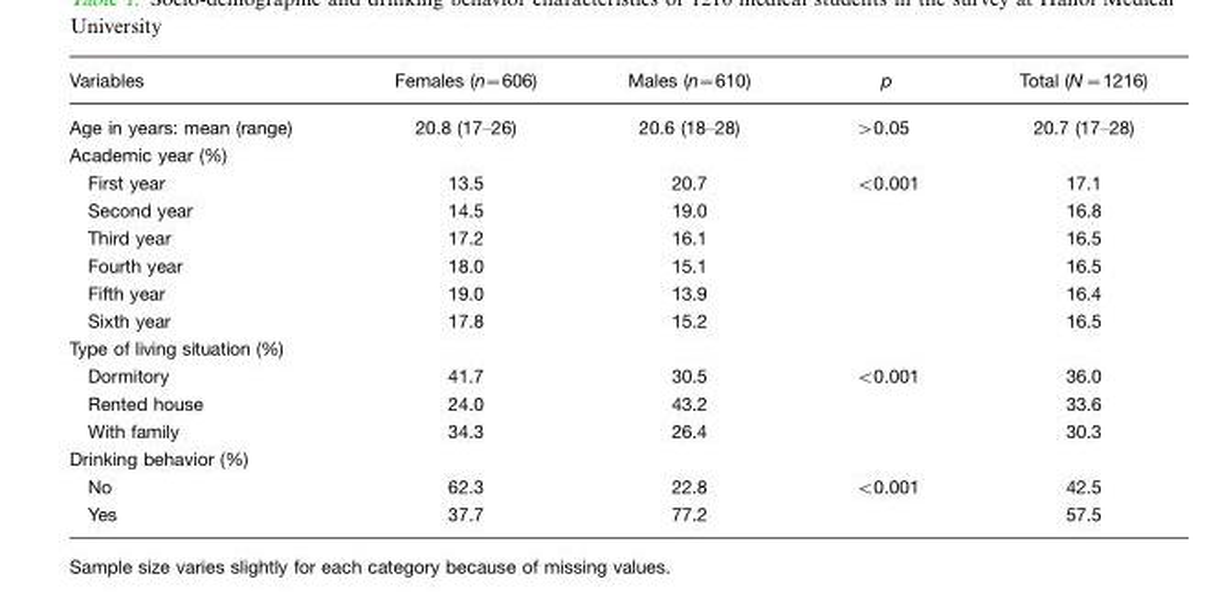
<table><thead><tr><td>Variables</td><td>Females (n=606)</td><td>Males (n=610)</td><td>p</td><td>Total (N=1216)</td></tr></thead><tbody><tr><td>Age in years: mean (range)</td><td>20.8 (17–26)</td><td>20.6 (18–28)</td><td>&gt;0.05</td><td>20.7 (17–28)</td></tr><tr><td colspan="5">Academic year (%)</td></tr><tr><td>First year</td><td>13.5</td><td>20.7</td><td>&lt;0.001</td><td>17.1</td></tr><tr><td>Second year</td><td>14.5</td><td>19.0</td><td></td><td>16.8</td></tr><tr><td>Third year</td><td>17.2</td><td>16.1</td><td></td><td>16.5</td></tr><tr><td>Fourth year</td><td>18.0</td><td>15.1</td><td></td><td>16.5</td></tr><tr><td>Fifth year</td><td>19.0</td><td>13.9</td><td></td><td>16.4</td></tr><tr><td>Sixth year</td><td>17.8</td><td>15.2</td><td></td><td>16.5</td></tr><tr><td colspan="5">Type of living situation (%)</td></tr><tr><td>Dormitory</td><td>41.7</td><td>30.5</td><td>&lt;0.001</td><td>36.0</td></tr><tr><td>Rented house</td><td>24.0</td><td>43.2</td><td></td><td>33.6</td></tr><tr><td>With family</td><td>34.3</td><td>26.4</td><td></td><td>30.3</td></tr><tr><td colspan="5">Drinking behavior (%)</td></tr><tr><td>No</td><td>62.3</td><td>22.8</td><td>&lt;0.001</td><td>42.5</td></tr><tr><td>Yes</td><td>37.7</td><td>77.2</td><td></td><td>57.5</td></tr></tbody></table>